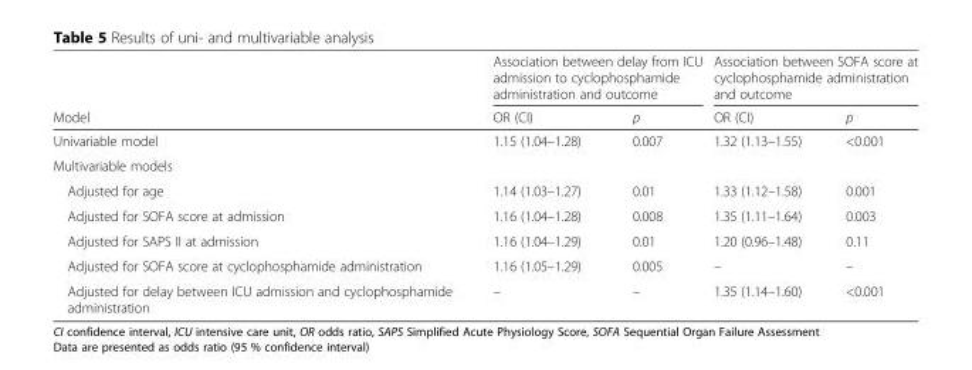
<table><thead><tr><td rowspan="2">Model</td><td colspan="2">Association between delay from ICU admission to cyclophosphamide administration and outcome</td><td colspan="2">Association between SOFA score at cyclophosphamide administration and outcome</td></tr><tr><td>OR (CI)</td><td>p</td><td>OR (CI)</td><td>p</td></tr></thead><tbody><tr><td>Univariable model</td><td>1.15 (1.04–1.28)</td><td>0.007</td><td>1.32 (1.13–1.55)</td><td>&lt;0.001</td></tr><tr><td colspan="5">Multivariable models</td></tr><tr><td>Adjusted for age</td><td>1.14 (1.03–1.27)</td><td>0.01</td><td>1.33 (1.12–1.58)</td><td>0.001</td></tr><tr><td>Adjusted for SOFA score at admission</td><td>1.16 (1.04–1.28)</td><td>0.008</td><td>1.35 (1.11–1.64)</td><td>0.003</td></tr><tr><td>Adjusted for SAPS II at admission</td><td>1.16 (1.04–1.29)</td><td>0.01</td><td>1.20 (0.96–1.48)</td><td>0.11</td></tr><tr><td>Adjusted for SOFA score at cyclophosphamide administration</td><td>1.16 (1.05–1.29)</td><td>0.005</td><td>–</td><td>–</td></tr><tr><td>Adjusted for delay between ICU admission and cyclophosphamide administration</td><td>–</td><td>–</td><td>1.35 (1.14–1.60)</td><td>&lt;0.001</td></tr></tbody></table>